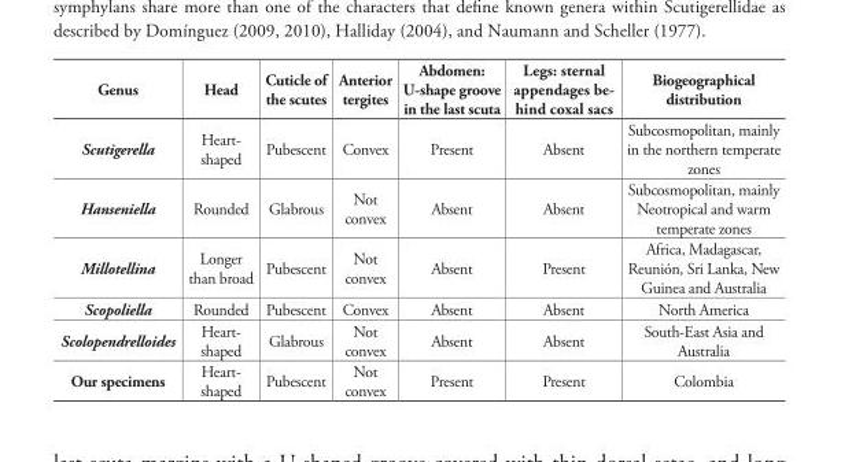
<table><thead><tr><td>Genus</td><td>Head</td><td>Cuticle of the scutes</td><td>Anterior tergites</td><td>Abdomen: U-shape groove in the last scuta</td><td>Legs: sternal appendages be- hind coxal sacs</td><td>Biogeographical distribution</td></tr></thead><tbody><tr><td>Scutigerella</td><td>Heart- shaped</td><td>Pubescent</td><td>Convex</td><td>Present</td><td>Absent</td><td>Subcosmopolitan, mainly in the northern temperate zones</td></tr><tr><td>Hanseniella</td><td>Rounded</td><td>Glabrous</td><td>Not convex</td><td>Absent</td><td>Absent</td><td>Subcosmopolitan, mainly Neotropical and warm temperate zones</td></tr><tr><td>Millotellina</td><td>Longer than broad</td><td>Pubescent</td><td>Not convex</td><td>Absent</td><td>Present</td><td>Africa, Madagascar, Reunión, Sri Lanka, New Guinea and Australia</td></tr><tr><td>Scopoliella</td><td>Rounded</td><td>Pubescent</td><td>Convex</td><td>Absent</td><td>Absent</td><td>North America</td></tr><tr><td>Scolopendrelloides</td><td>Heart- shaped</td><td>Glabrous</td><td>Not convex</td><td>Absent</td><td>Absent</td><td>South-East Asia and Australia</td></tr><tr><td>Our specimens</td><td>Heart- shaped</td><td>Pubescent</td><td>Not convex</td><td>Present</td><td>Present</td><td>Colombia</td></tr></tbody></table>